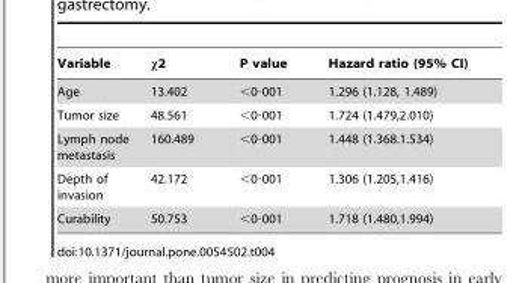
<table><thead><tr><td>Variable</td><td>x2</td><td>P value</td><td>Hazard ratio (95% CI)</td></tr></thead><tbody><tr><td>Age</td><td>13.402</td><td>&lt;0·001</td><td>1.296 (1.128, 1.489)</td></tr><tr><td>Tumor size</td><td>48.561</td><td>&lt;0·001</td><td>1.724 (1.479,2.010)</td></tr><tr><td>Lymph node metastasis</td><td>160.489</td><td>&lt;0·001</td><td>1.448 (1.368.1.534)</td></tr><tr><td>Depth of invasion</td><td>42.172</td><td>&lt;0·001</td><td>1.306 (1.205,1.416)</td></tr><tr><td>Curability</td><td>50.753</td><td>&lt;0·001</td><td>1.718 (1.480,1.994)</td></tr></tbody></table>